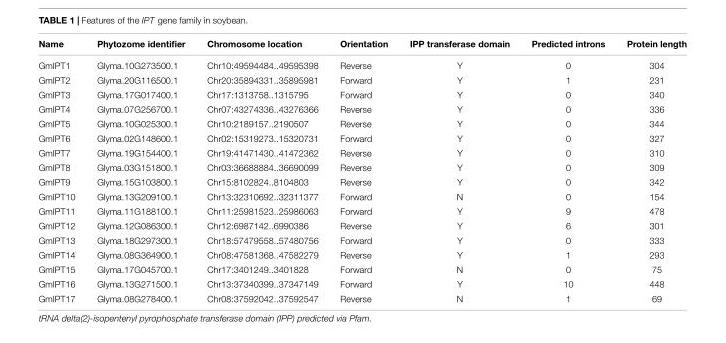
<table><thead><tr><td>Name</td><td>Phytozome identifier</td><td>Chromosome location</td><td>Orientation</td><td>IPP transferase domain</td><td>Predicted introns</td><td>Protein length</td></tr></thead><tbody><tr><td>GmIPT1</td><td>Glyma.10G273500.1</td><td>Chr10:49594484..49595398</td><td>Reverse</td><td>Y</td><td>0</td><td>304</td></tr><tr><td>GmIPT2</td><td>Glyma.20G116500.1</td><td>Chr20:35894331..35895981</td><td>Forward</td><td>Y</td><td>1</td><td>231</td></tr><tr><td>GmIPT3</td><td>Glyma.17G017400.1</td><td>Chr17:1313758..1315795</td><td>Forward</td><td>Y</td><td>0</td><td>340</td></tr><tr><td>GmIPT4</td><td>Glyma.07G256700.1</td><td>Chr07:43274336..43276366</td><td>Reverse</td><td>Y</td><td>0</td><td>336</td></tr><tr><td>GmIPT5</td><td>Glyma.10G025300.1</td><td>Chr10:2189157..2190507</td><td>Reverse</td><td>Y</td><td>0</td><td>344</td></tr><tr><td>GmIPT6</td><td>Glyma.02G148600.1</td><td>Chr02:15319273..15320731</td><td>Forward</td><td>Y</td><td>0</td><td>327</td></tr><tr><td>GmIPT7</td><td>Glyma.19G154400.1</td><td>Chr19:41471430..41472362</td><td>Reverse</td><td>Y</td><td>0</td><td>310</td></tr><tr><td>GmIPT8</td><td>Glyma.03G151800.1</td><td>Chr03:36688884..36690099</td><td>Reverse</td><td>Y</td><td>0</td><td>309</td></tr><tr><td>GmIPT9</td><td>Glyma.15G103800.1</td><td>Chr15:8102824..8104803</td><td>Reverse</td><td>Y</td><td>0</td><td>342</td></tr><tr><td>GmIPT10</td><td>Glyma.13G209100.1</td><td>Chr13:32310692..32311377</td><td>Forward</td><td>N</td><td>0</td><td>154</td></tr><tr><td>GmIPT11</td><td>Glyma.11G188100.1</td><td>Chr11:25981523..25986063</td><td>Forward</td><td>Y</td><td>9</td><td>478</td></tr><tr><td>GmIPT12</td><td>Glyma.12G086300.1</td><td>Chr12:6987142..6990386</td><td>Reverse</td><td>Y</td><td>6</td><td>301</td></tr><tr><td>GmIPT13</td><td>Glyma.18G297300.1</td><td>Chr18:57479558..57480756</td><td>Forward</td><td>Y</td><td>0</td><td>333</td></tr><tr><td>GmIPT14</td><td>Glyma.08G364900.1</td><td>Chr08:47581368..47582279</td><td>Reverse</td><td>Y</td><td>1</td><td>293</td></tr><tr><td>GmIPT15</td><td>Glyma.17G045700.1</td><td>Chr17:3401249..3401828</td><td>Forward</td><td>N</td><td>0</td><td>75</td></tr><tr><td>GmIPT16</td><td>Glyma.13G271500.1</td><td>Chr13:37340399..37347149</td><td>Forward</td><td>Y</td><td>10</td><td>448</td></tr><tr><td>GmIPT17</td><td>Glyma.08G278400.1</td><td>Chr08:37592042..37592547</td><td>Reverse</td><td>N</td><td>1</td><td>69</td></tr></tbody></table>